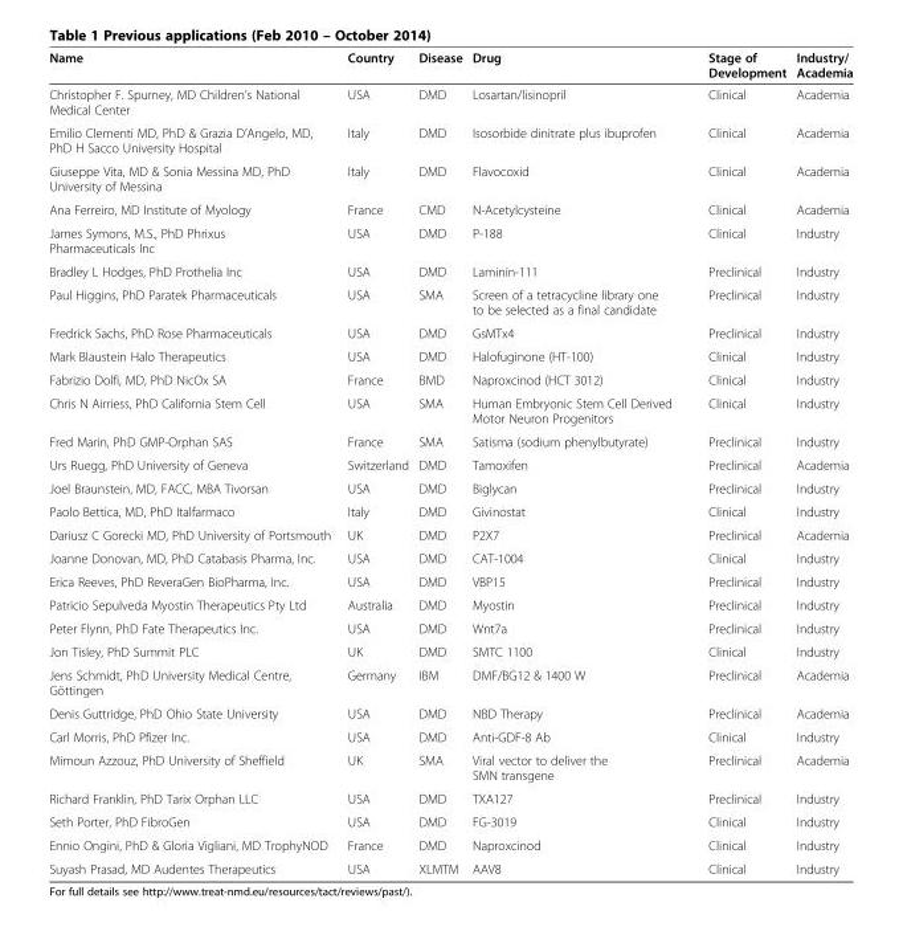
<table><thead><tr><td>Name</td><td>Country</td><td>Disease</td><td>Drug</td><td>Stage of Development</td><td>Industry/ Academia</td></tr></thead><tbody><tr><td>Christopher F. Spurney, MD Children’s National Medical Center</td><td>USA</td><td>DMD</td><td>Losartan/lisinopril</td><td>Clinical</td><td>Academia</td></tr><tr><td>Emilio Clementi MD, PhD &amp; Grazia D’Angelo, MD, PhD H Sacco University Hospital</td><td>Italy</td><td>DMD</td><td>Isosorbide dinitrate plus ibuprofen</td><td>Clinical</td><td>Academia</td></tr><tr><td>Giuseppe Vita, MD &amp; Sonia Messina MD, PhD University of Messina</td><td>Italy</td><td>DMD</td><td>Flavocoxid</td><td>Clinical</td><td>Academia</td></tr><tr><td>Ana Ferreiro, MD Institute of Myology</td><td>France</td><td>CMD</td><td>N-Acetylcysteine</td><td>Clinical</td><td>Academia</td></tr><tr><td>James Symons, M.S., PhD Phrixus Pharmaceuticals Inc</td><td>USA</td><td>DMD</td><td>P-188</td><td>Clinical</td><td>Industry</td></tr><tr><td>Bradley L Hodges, PhD Prothelia Inc</td><td>USA</td><td>DMD</td><td>Laminin-111</td><td>Preclinical</td><td>Industry</td></tr><tr><td>Paul Higgins, PhD Paratek Pharmaceuticals</td><td>USA</td><td>SMA</td><td>Screen of a tetracycline library one to be selected as a final candidate</td><td>Preclinical</td><td>Industry</td></tr><tr><td>Fredrick Sachs, PhD Rose Pharmaceuticals</td><td>USA</td><td>DMD</td><td>GsMTx4</td><td>Preclinical</td><td>Industry</td></tr><tr><td>Mark Blaustein Halo Therapeutics</td><td>USA</td><td>DMD</td><td>Halofuginone (HT-100)</td><td>Clinical</td><td>Industry</td></tr><tr><td>Fabrizio Dolfi, MD, PhD NicOx SA</td><td>France</td><td>BMD</td><td>Naproxcinod (HCT 3012)</td><td>Clinical</td><td>Industry</td></tr><tr><td>Chris N Airriess, PhD California Stem Cell</td><td>USA</td><td>SMA</td><td>Human Embryonic Stem Cell Derived Motor Neuron Progenitors</td><td>Clinical</td><td>Industry</td></tr><tr><td>Fred Marin, PhD GMP-Orphan SAS</td><td>France</td><td>SMA</td><td>Satisma (sodium phenylbutyrate)</td><td>Preclinical</td><td>Industry</td></tr><tr><td>Urs Ruegg, PhD University of Geneva</td><td>Switzerland</td><td>DMD</td><td>Tamoxifen</td><td>Preclinical</td><td>Academia</td></tr><tr><td>Joel Braunstein, MD, FACC, MBA Tivorsan</td><td>USA</td><td>DMD</td><td>Biglycan</td><td>Preclinical</td><td>Industry</td></tr><tr><td>Paolo Bettica, MD, PhD Italfarmaco</td><td>Italy</td><td>DMD</td><td>Givinostat</td><td>Clinical</td><td>Industry</td></tr><tr><td>Dariusz C Gorecki MD, PhD University of Portsmouth</td><td>UK</td><td>DMD</td><td>P2X7</td><td>Preclinical</td><td>Academia</td></tr><tr><td>Joanne Donovan, MD, PhD Catabasis Pharma, Inc.</td><td>USA</td><td>DMD</td><td>CAT-1004</td><td>Clinical</td><td>Industry</td></tr><tr><td>Erica Reeves, PhD ReveraGen BioPharma, Inc.</td><td>USA</td><td>DMD</td><td>VBP15</td><td>Preclinical</td><td>Industry</td></tr><tr><td>Patricio Sepulveda Myostin Therapeutics Pty Ltd</td><td>Australia</td><td>DMD</td><td>Myostin</td><td>Preclinical</td><td>Industry</td></tr><tr><td>Peter Flynn, PhD Fate Therapeutics Inc.</td><td>USA</td><td>DMD</td><td>Wnt7a</td><td>Preclinical</td><td>Industry</td></tr><tr><td>Jon Tisley, PhD Summit PLC</td><td>UK</td><td>DMD</td><td>SMTC 1100</td><td>Clinical</td><td>Industry</td></tr><tr><td>Jens Schmidt, PhD University Medical Centre, Göttingen</td><td>Germany</td><td>IBM</td><td>DMF/BG12 &amp; 1400 W</td><td>Preclinical</td><td>Academia</td></tr><tr><td>Denis Guttridge, PhD Ohio State University</td><td>USA</td><td>DMD</td><td>NBD Therapy</td><td>Preclinical</td><td>Academia</td></tr><tr><td>Carl Morris, PhD Pfizer Inc.</td><td>USA</td><td>DMD</td><td>Anti-GDF-8 Ab</td><td>Clinical</td><td>Industry</td></tr><tr><td>Mimoun Azzouz, PhD University of Sheffield</td><td>UK</td><td>SMA</td><td>Viral vector to deliver the SMN transgene</td><td>Preclinical</td><td>Academia</td></tr><tr><td>Richard Franklin, PhD Tarix Orphan LLC</td><td>USA</td><td>DMD</td><td>TXA127</td><td>Preclinical</td><td>Industry</td></tr><tr><td>Seth Porter, PhD FibroGen</td><td>USA</td><td>DMD</td><td>FG-3019</td><td>Clinical</td><td>Industry</td></tr><tr><td>Ennio Ongini, PhD &amp; Gloria Vigliani, MD TrophyNOD</td><td>France</td><td>DMD</td><td>Naproxcinod</td><td>Clinical</td><td>Industry</td></tr><tr><td>Suyash Prasad, MD Audentes Therapeutics</td><td>USA</td><td>XLMTM</td><td>AAV8</td><td>Clinical</td><td>Industry</td></tr></tbody></table>